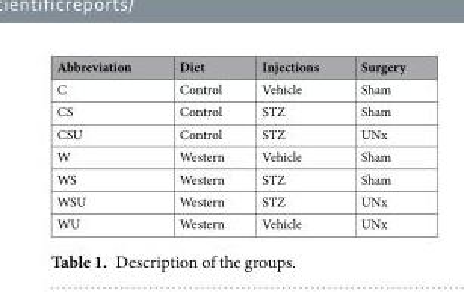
<table><thead><tr><td>Abbreviation</td><td>Diet</td><td>Injections</td><td>Surgery</td></tr></thead><tbody><tr><td>C</td><td>Control</td><td>Vehicle</td><td>Sham</td></tr><tr><td>CS</td><td>Control</td><td>STZ</td><td>Sham</td></tr><tr><td>CSU</td><td>Control</td><td>STZ</td><td>UNx</td></tr><tr><td>W</td><td>Western</td><td>Vehicle</td><td>Sham</td></tr><tr><td>WS</td><td>Western</td><td>STZ</td><td>Sham</td></tr><tr><td>WSU</td><td>Western</td><td>STZ</td><td>UNx</td></tr><tr><td>WU</td><td>Western</td><td>Vehicle</td><td>UNx</td></tr></tbody></table>